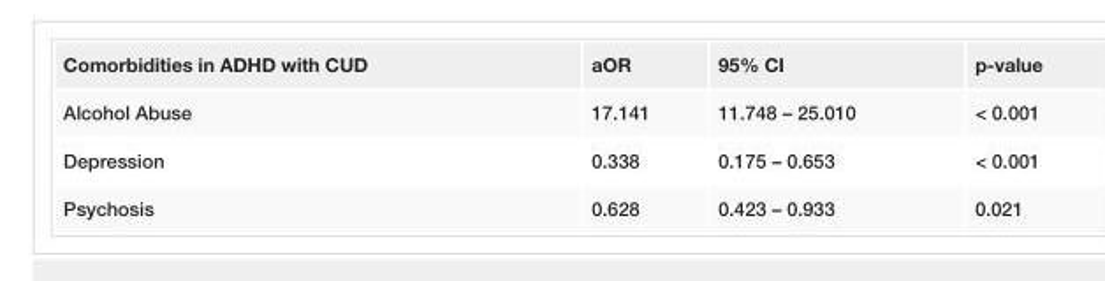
<table><tbody><tr><td>Comorbidities in ADHD with CUD</td><td>aOR</td><td>95% CI</td><td>p-value</td></tr><tr><td>Alcohol Abuse</td><td>17.141</td><td>11.748 – 25.010</td><td>&lt; 0.001</td></tr><tr><td>Depression</td><td>0.338</td><td>0.175 – 0.653</td><td>&lt; 0.001</td></tr><tr><td>Psychosis</td><td>0.628</td><td>0.423 – 0.933</td><td>0.021</td></tr></tbody></table>